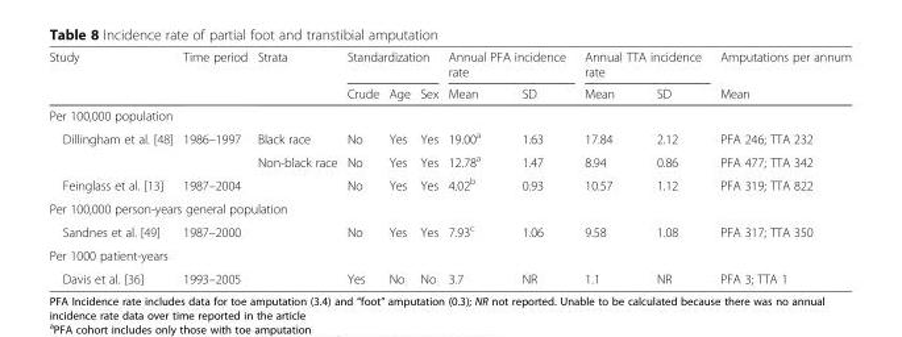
<table><thead><tr><td rowspan="2">Study</td><td rowspan="2">Time period</td><td rowspan="2">Strata</td><td colspan="3">Standardization</td><td colspan="2">Annual PFA incidence rate</td><td colspan="2">Annual TTA incidence rate</td><td rowspan="2">Amputations per annum Mean</td></tr><tr><td>Crude</td><td>Age</td><td>Sex</td><td>Mean</td><td>SD</td><td>Mean</td><td>SD</td></tr></thead><tbody><tr><td colspan="11">Per 100,000 population</td></tr><tr><td rowspan="2">Dillingham et al. [48]</td><td>1986–1997</td><td>Black race</td><td>No</td><td>Yes</td><td>Yes</td><td>19.00<sup>a</sup></td><td>1.63</td><td>17.84</td><td>2.12</td><td>PFA 246; TTA 232</td></tr><tr><td></td><td>Non-black race</td><td>No</td><td>Yes</td><td>Yes</td><td>12.78<sup>a</sup></td><td>1.47</td><td>8.94</td><td>0.86</td><td>PFA 477; TTA 342</td></tr><tr><td>Feinglass et al. [13]</td><td>1987–2004</td><td></td><td>No</td><td>Yes</td><td>Yes</td><td>4.02<sup>b</sup></td><td>0.93</td><td>10.57</td><td>1.12</td><td>PFA 319; TTA 822</td></tr><tr><td colspan="11">Per 100,000 person-years general population</td></tr><tr><td>Sandnes et al. [49]</td><td>1987–2000</td><td></td><td>No</td><td>Yes</td><td>Yes</td><td>7.93<sup>c</sup></td><td>1.06</td><td>9.58</td><td>1.08</td><td>PFA 317; TTA 350</td></tr><tr><td colspan="11">Per 1000 patient-years</td></tr><tr><td>Davis et al. [36]</td><td>1993–2005</td><td></td><td>Yes</td><td>No</td><td>No</td><td>3.7</td><td>NR</td><td>1.1</td><td>NR</td><td>PFA 3; TTA 1</td></tr></tbody></table>